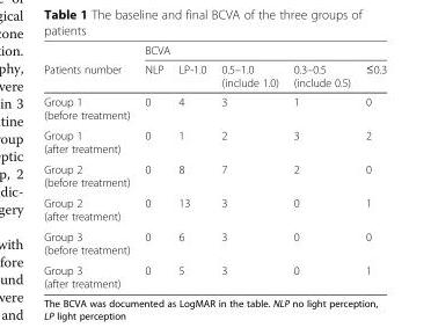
<table><thead><tr><td rowspan="2">Patients number</td><td colspan="5">BCVA</td></tr><tr><td>NLP</td><td>LP-1.0</td><td>0.5–1.0 (include 1.0)</td><td>0.3–0.5 (include 0.5)</td><td>≤0.3</td></tr></thead><tbody><tr><td>Group 1 (before treatment)</td><td>0</td><td>4</td><td>3</td><td>1</td><td>0</td></tr><tr><td>Group 1 (after treatment)</td><td>0</td><td>1</td><td>2</td><td>3</td><td>2</td></tr><tr><td>Group 2 (before treatment)</td><td>0</td><td>8</td><td>7</td><td>2</td><td>0</td></tr><tr><td>Group 2 (after treatment)</td><td>0</td><td>13</td><td>3</td><td>0</td><td>1</td></tr><tr><td>Group 3 (before treatment)</td><td>0</td><td>6</td><td>3</td><td>0</td><td>0</td></tr><tr><td>Group 3 (after treatment)</td><td>0</td><td>5</td><td>3</td><td>0</td><td>1</td></tr></tbody></table>